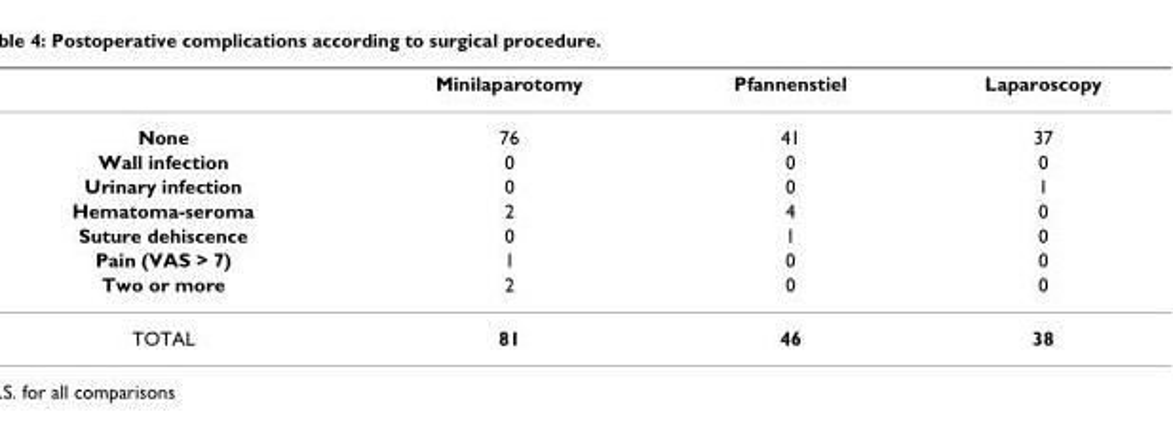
<table><thead><tr><td></td><td>Minilaparotomy</td><td>Pfannenstiel</td><td>Laparoscopy</td></tr></thead><tbody><tr><td>None</td><td>76</td><td>41</td><td>37</td></tr><tr><td>Wall infection</td><td>0</td><td>0</td><td>0</td></tr><tr><td>Urinary infection</td><td>0</td><td>0</td><td>1</td></tr><tr><td>Hematoma-seroma</td><td>2</td><td>4</td><td>0</td></tr><tr><td>Suture dehiscence</td><td>0</td><td>1</td><td>0</td></tr><tr><td>Pain (VAS &gt; 7)</td><td>1</td><td>0</td><td>0</td></tr><tr><td>Two or more</td><td>2</td><td>0</td><td>0</td></tr><tr><td>TOTAL</td><td>81</td><td>46</td><td>38</td></tr></tbody></table>